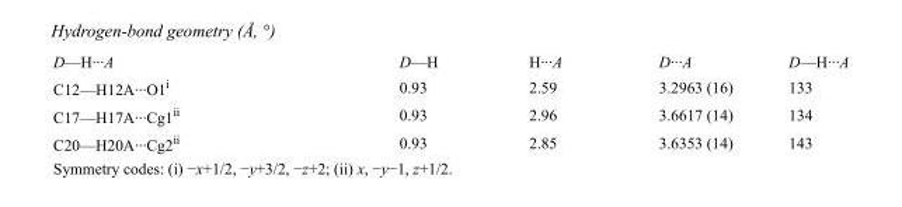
<table><tbody><tr><td>D—H···A</td><td>D—H</td><td>H···A</td><td>D···A</td><td>D—H···A</td></tr><tr><td>C12—H12A···O1<sup>i</sup></td><td>0.93</td><td>2.59</td><td>3.2963 (16)</td><td>133</td></tr><tr><td>C17—H17A···Cg1<sup>ii</sup></td><td>0.93</td><td>2.96</td><td>3.6617 (14)</td><td>134</td></tr><tr><td>C20—H20A···Cg2<sup>ii</sup></td><td>0.93</td><td>2.85</td><td>3.6353 (14)</td><td>143</td></tr></tbody></table>